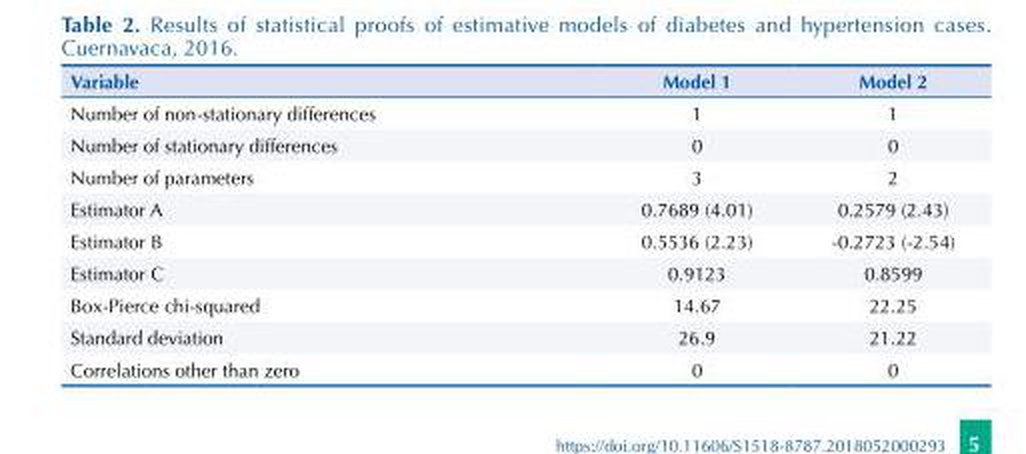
<table><thead><tr><td>Variable</td><td>Model 1</td><td>Model 2</td></tr></thead><tbody><tr><td>Number of non-stationary differences</td><td>1</td><td>1</td></tr><tr><td>Number of stationary differences</td><td>0</td><td>0</td></tr><tr><td>Number of parameters</td><td>3</td><td>2</td></tr><tr><td>Estimator A</td><td>0.7689 (4.01)</td><td>0.2579 (2.43)</td></tr><tr><td>Estimator B</td><td>0.5536 (2.23)</td><td>-0.2723 (-2.54)</td></tr><tr><td>Estimator C</td><td>0.9123</td><td>0.8599</td></tr><tr><td>Box-Pierce chi-squared</td><td>14.67</td><td>22.25</td></tr><tr><td>Standard deviation</td><td>26.9</td><td>21.22</td></tr><tr><td>Correlations other than zero</td><td>0</td><td>0</td></tr></tbody></table>